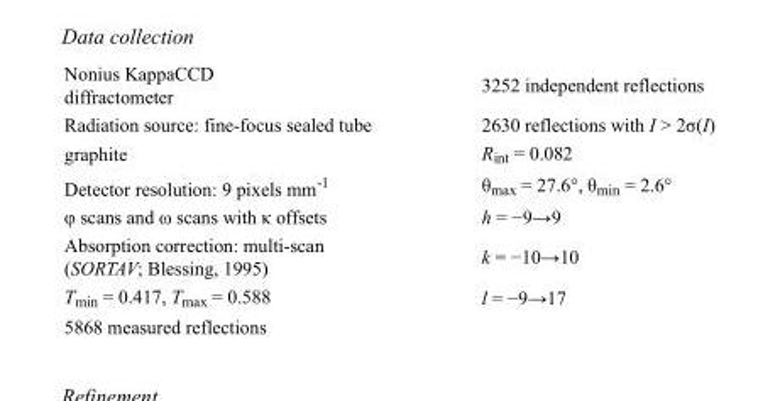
<table><tbody><tr><td>Nonius KappaCCD diffractometer</td><td>3252 independent reflections</td></tr><tr><td>Radiation source: fine-focus sealed tube</td><td>2630 reflections with I &gt; 2σ(I)</td></tr><tr><td>graphite</td><td>R<sub>int</sub> = 0.082</td></tr><tr><td>Detector resolution: 9 pixels mm<sup>-1</sup></td><td>θ<sub>max</sub> = 27.6°, θ<sub>min</sub> = 2.6°</td></tr><tr><td>φ scans and ω scans with κ offsets</td><td>h = −9→9</td></tr><tr><td>Absorption correction: multi-scan (SORTAV; Blessing, 1995)</td><td>k = −10→10</td></tr><tr><td>T<sub>min</sub> = 0.417, T<sub>max</sub> = 0.588</td><td>l = −9→17</td></tr><tr><td>5868 measured reflections</td><td></td></tr></tbody></table>